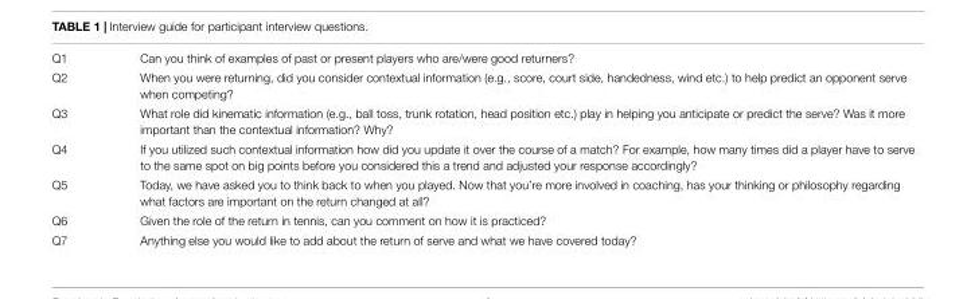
<table><tbody><tr><td>Q1</td><td>Can you think of examples of past or present players who are/were good returners?</td></tr><tr><td>Q2</td><td>When you were returning, did you consider contextual information (e.g., score, court side, handedness, wind etc.) to help predict an opponent serve when competing?</td></tr><tr><td>Q3</td><td>What role did kinematic information (e.g., ball toss, trunk rotation, head position etc.) play in helping you anticipate or predict the serve? Was it more important than the contextual information? Why?</td></tr><tr><td>Q4</td><td>If you utilized such contextual information how did you update it over the course of a match? For example, how many times did a player have to serve to the same spot on big points before you considered this a trend and adjusted your response accordingly?</td></tr><tr><td>Q5</td><td>Today, we have asked you to think back to when you played. Now that you’re more involved in coaching, has your thinking or philosophy regarding what factors are important on the return changed at all?</td></tr><tr><td>Q6</td><td>Given the role of the return in tennis, can you comment on how it is practiced?</td></tr><tr><td>Q7</td><td>Anything else you would like to add about the return of serve and what we have covered today?</td></tr></tbody></table>